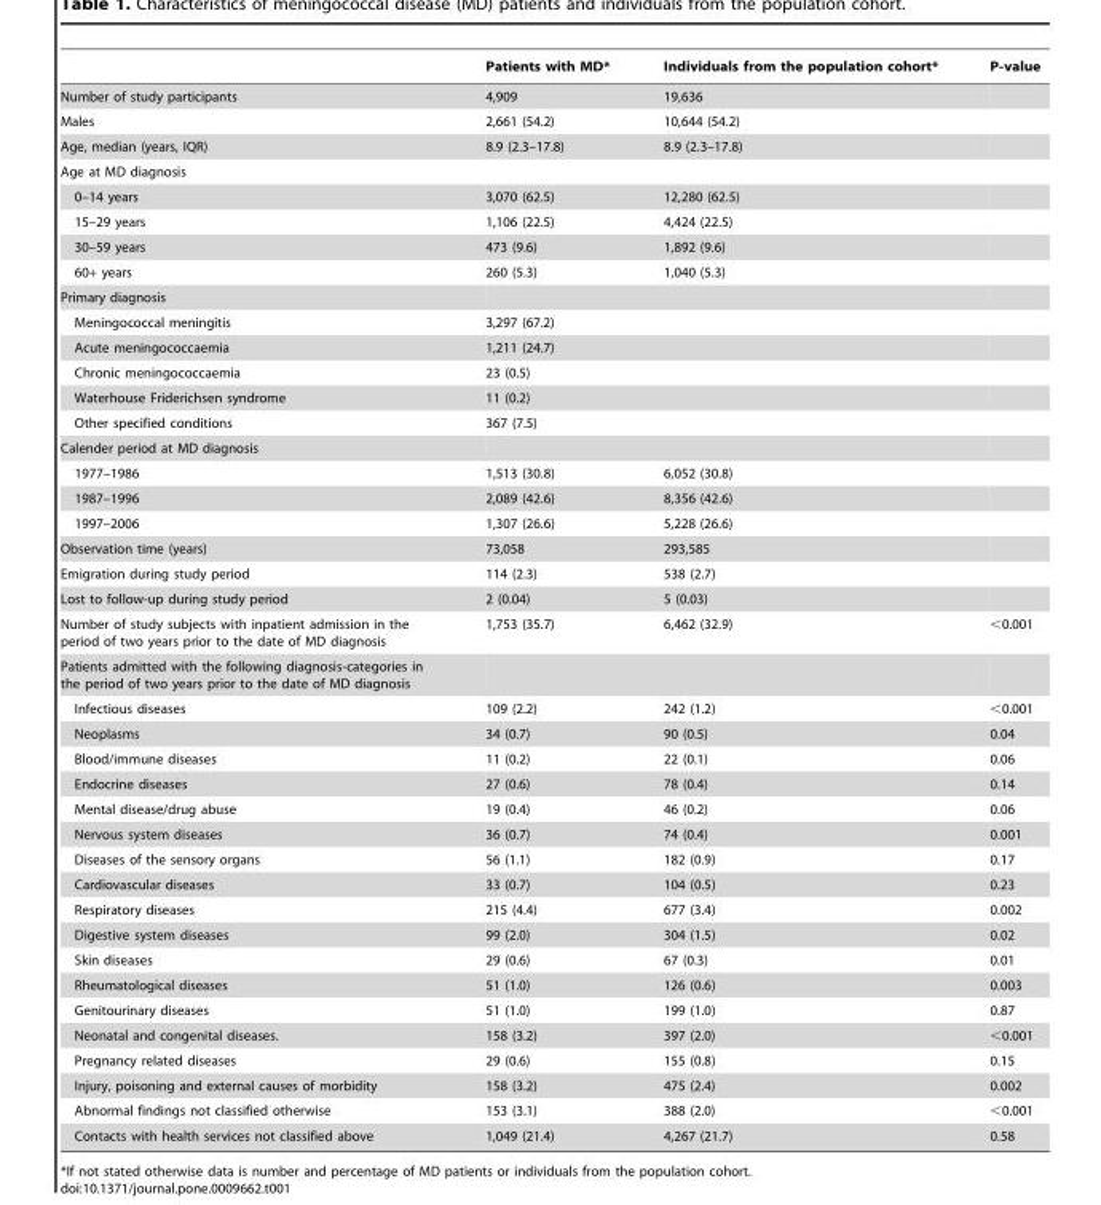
<table><thead><tr><td></td><td>Patients with MD*</td><td>Individuals from the population cohort*</td><td>P-value</td></tr></thead><tbody><tr><td>Number of study participants</td><td>4,909</td><td>19,636</td><td></td></tr><tr><td>Males</td><td>2,661 (54.2)</td><td>10,644 (54.2)</td><td></td></tr><tr><td>Age, median (years, IQR)</td><td>8.9 (2.3–17.8)</td><td>8.9 (2.3–17.8)</td><td></td></tr><tr><td colspan="4">Age at MD diagnosis</td></tr><tr><td>0–14 years</td><td>3,070 (62.5)</td><td>12,280 (62.5)</td><td></td></tr><tr><td>15–29 years</td><td>1,106 (22.5)</td><td>4,424 (22.5)</td><td></td></tr><tr><td>30–59 years</td><td>473 (9.6)</td><td>1,892 (9.6)</td><td></td></tr><tr><td>60+ years</td><td>260 (5.3)</td><td>1,040 (5.3)</td><td></td></tr><tr><td colspan="4">Primary diagnosis</td></tr><tr><td>Meningococcal meningitis</td><td>3,297 (67.2)</td><td></td><td></td></tr><tr><td>Acute meningococcaemia</td><td>1,211 (24.7)</td><td></td><td></td></tr><tr><td>Chronic meningococcaemia</td><td>23 (0.5)</td><td></td><td></td></tr><tr><td>Waterhouse Friderichsen syndrome</td><td>11 (0.2)</td><td></td><td></td></tr><tr><td>Other specified conditions</td><td>367 (7.5)</td><td></td><td></td></tr><tr><td colspan="4">Calender period at MD diagnosis</td></tr><tr><td>1977–1986</td><td>1,513 (30.8)</td><td>6,052 (30.8)</td><td></td></tr><tr><td>1987–1996</td><td>2,089 (42.6)</td><td>8,356 (42.6)</td><td></td></tr><tr><td>1997–2006</td><td>1,307 (26.6)</td><td>5,228 (26.6)</td><td></td></tr><tr><td>Observation time (years)</td><td>73,058</td><td>293,585</td><td></td></tr><tr><td>Emigration during study period</td><td>114 (2.3)</td><td>538 (2.7)</td><td></td></tr><tr><td>Lost to follow-up during study period</td><td>2 (0.04)</td><td>5 (0.03)</td><td></td></tr><tr><td>Number of study subjects with inpatient admission in the period of two years prior to the date of MD diagnosis</td><td>1,753 (35.7)</td><td>6,462 (32.9)</td><td>&lt;0.001</td></tr><tr><td colspan="4">Patients admitted with the following diagnosis-categories in the period of two years prior to the date of MD diagnosis</td></tr><tr><td>Infectious diseases</td><td>109 (2.2)</td><td>242 (1.2)</td><td>&lt;0.001</td></tr><tr><td>Neoplasms</td><td>34 (0.7)</td><td>90 (0.5)</td><td>0.04</td></tr><tr><td>Blood/immune diseases</td><td>11 (0.2)</td><td>22 (0.1)</td><td>0.06</td></tr><tr><td>Endocrine diseases</td><td>27 (0.6)</td><td>78 (0.4)</td><td>0.14</td></tr><tr><td>Mental disease/drug abuse</td><td>19 (0.4)</td><td>46 (0.2)</td><td>0.06</td></tr><tr><td>Nervous system diseases</td><td>36 (0.7)</td><td>74 (0.4)</td><td>0.001</td></tr><tr><td>Diseases of the sensory organs</td><td>56 (1.1)</td><td>182 (0.9)</td><td>0.17</td></tr><tr><td>Cardiovascular diseases</td><td>33 (0.7)</td><td>104 (0.5)</td><td>0.23</td></tr><tr><td>Respiratory diseases</td><td>215 (4.4)</td><td>677 (3.4)</td><td>0.002</td></tr><tr><td>Digestive system diseases</td><td>99 (2.0)</td><td>304 (1.5)</td><td>0.02</td></tr><tr><td>Skin diseases</td><td>29 (0.6)</td><td>67 (0.3)</td><td>0.01</td></tr><tr><td>Rheumatological diseases</td><td>51 (1.0)</td><td>126 (0.6)</td><td>0.003</td></tr><tr><td>Genitourinary diseases</td><td>51 (1.0)</td><td>199 (1.0)</td><td>0.87</td></tr><tr><td>Neonatal and congenital diseases.</td><td>158 (3.2)</td><td>397 (2.0)</td><td>&lt;0.001</td></tr><tr><td>Pregnancy related diseases</td><td>29 (0.6)</td><td>155 (0.8)</td><td>0.15</td></tr><tr><td>Injury, poisoning and external causes of morbidity</td><td>158 (3.2)</td><td>475 (2.4)</td><td>0.002</td></tr><tr><td>Abnormal findings not classified otherwise</td><td>153 (3.1)</td><td>388 (2.0)</td><td>&lt;0.001</td></tr><tr><td>Contacts with health services not classified above</td><td>1,049 (21.4)</td><td>4,267 (21.7)</td><td>0.58</td></tr></tbody></table>